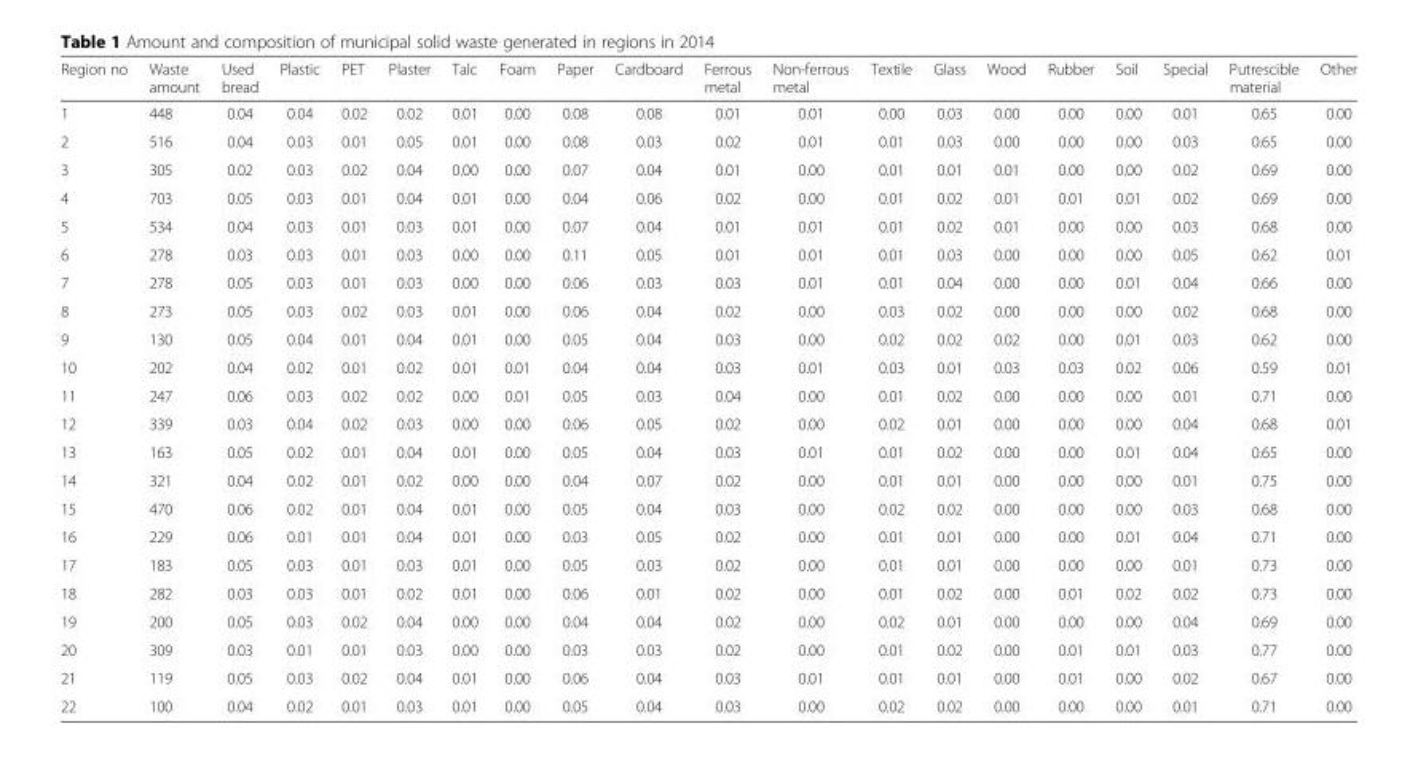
<table><thead><tr><td>Region no</td><td>Waste amount</td><td>Used bread</td><td>Plastic</td><td>PET</td><td>Plaster</td><td>Talc</td><td>Foam</td><td>Paper</td><td>Cardboard</td><td>Ferrous metal</td><td>Non-ferrous metal</td><td>Textile</td><td>Glass</td><td>Wood</td><td>Rubber</td><td>Soil</td><td>Special</td><td>Putrescible material</td><td>Other</td></tr></thead><tbody><tr><td>1</td><td>448</td><td>0.04</td><td>0.04</td><td>0.02</td><td>0.02</td><td>0.01</td><td>0.00</td><td>0.08</td><td>0.08</td><td>0.01</td><td>0.01</td><td>0.00</td><td>0.03</td><td>0.00</td><td>0.00</td><td>0.00</td><td>0.01</td><td>0.65</td><td>0.00</td></tr><tr><td>2</td><td>516</td><td>0.04</td><td>0.03</td><td>0.01</td><td>0.05</td><td>0.01</td><td>0.00</td><td>0.08</td><td>0.03</td><td>0.02</td><td>0.01</td><td>0.01</td><td>0.03</td><td>0.00</td><td>0.00</td><td>0.00</td><td>0.03</td><td>0.65</td><td>0.00</td></tr><tr><td>3</td><td>305</td><td>0.02</td><td>0.03</td><td>0.02</td><td>0.04</td><td>0.00</td><td>0.00</td><td>0.07</td><td>0.04</td><td>0.01</td><td>0.00</td><td>0.01</td><td>0.01</td><td>0.01</td><td>0.00</td><td>0.00</td><td>0.02</td><td>0.69</td><td>0.00</td></tr><tr><td>4</td><td>703</td><td>0.05</td><td>0.03</td><td>0.01</td><td>0.04</td><td>0.01</td><td>0.00</td><td>0.04</td><td>0.06</td><td>0.02</td><td>0.00</td><td>0.01</td><td>0.02</td><td>0.01</td><td>0.01</td><td>0.01</td><td>0.02</td><td>0.69</td><td>0.00</td></tr><tr><td>5</td><td>534</td><td>0.04</td><td>0.03</td><td>0.01</td><td>0.03</td><td>0.01</td><td>0.00</td><td>0.07</td><td>0.04</td><td>0.01</td><td>0.01</td><td>0.01</td><td>0.02</td><td>0.01</td><td>0.00</td><td>0.00</td><td>0.03</td><td>0.68</td><td>0.00</td></tr><tr><td>6</td><td>278</td><td>0.03</td><td>0.03</td><td>0.01</td><td>0.03</td><td>0.00</td><td>0.00</td><td>0.11</td><td>0.05</td><td>0.01</td><td>0.01</td><td>0.01</td><td>0.03</td><td>0.00</td><td>0.00</td><td>0.00</td><td>0.05</td><td>0.62</td><td>0.01</td></tr><tr><td>7</td><td>278</td><td>0.05</td><td>0.03</td><td>0.01</td><td>0.03</td><td>0.00</td><td>0.00</td><td>0.06</td><td>0.03</td><td>0.03</td><td>0.01</td><td>0.01</td><td>0.04</td><td>0.00</td><td>0.00</td><td>0.01</td><td>0.04</td><td>0.66</td><td>0.00</td></tr><tr><td>8</td><td>273</td><td>0.05</td><td>0.03</td><td>0.02</td><td>0.03</td><td>0.01</td><td>0.00</td><td>0.06</td><td>0.04</td><td>0.02</td><td>0.00</td><td>0.03</td><td>0.02</td><td>0.00</td><td>0.00</td><td>0.00</td><td>0.02</td><td>0.68</td><td>0.00</td></tr><tr><td>9</td><td>130</td><td>0.05</td><td>0.04</td><td>0.01</td><td>0.04</td><td>0.01</td><td>0.00</td><td>0.05</td><td>0.04</td><td>0.03</td><td>0.00</td><td>0.02</td><td>0.02</td><td>0.02</td><td>0.00</td><td>0.01</td><td>0.03</td><td>0.62</td><td>0.00</td></tr><tr><td>10</td><td>202</td><td>0.04</td><td>0.02</td><td>0.01</td><td>0.02</td><td>0.01</td><td>0.01</td><td>0.04</td><td>0.04</td><td>0.03</td><td>0.01</td><td>0.03</td><td>0.01</td><td>0.03</td><td>0.03</td><td>0.02</td><td>0.06</td><td>0.59</td><td>0.01</td></tr><tr><td>11</td><td>247</td><td>0.06</td><td>0.03</td><td>0.02</td><td>0.02</td><td>0.00</td><td>0.01</td><td>0.05</td><td>0.03</td><td>0.04</td><td>0.00</td><td>0.01</td><td>0.02</td><td>0.00</td><td>0.00</td><td>0.00</td><td>0.01</td><td>0.71</td><td>0.00</td></tr><tr><td>12</td><td>339</td><td>0.03</td><td>0.04</td><td>0.02</td><td>0.03</td><td>0.00</td><td>0.00</td><td>0.06</td><td>0.05</td><td>0.02</td><td>0.00</td><td>0.02</td><td>0.01</td><td>0.00</td><td>0.00</td><td>0.00</td><td>0.04</td><td>0.68</td><td>0.01</td></tr><tr><td>13</td><td>163</td><td>0.05</td><td>0.02</td><td>0.01</td><td>0.04</td><td>0.01</td><td>0.00</td><td>0.05</td><td>0.04</td><td>0.03</td><td>0.01</td><td>0.01</td><td>0.02</td><td>0.00</td><td>0.00</td><td>0.01</td><td>0.04</td><td>0.65</td><td>0.00</td></tr><tr><td>14</td><td>321</td><td>0.04</td><td>0.02</td><td>0.01</td><td>0.02</td><td>0.00</td><td>0.00</td><td>0.04</td><td>0.07</td><td>0.02</td><td>0.00</td><td>0.01</td><td>0.01</td><td>0.00</td><td>0.00</td><td>0.00</td><td>0.01</td><td>0.75</td><td>0.00</td></tr><tr><td>15</td><td>470</td><td>0.06</td><td>0.02</td><td>0.01</td><td>0.04</td><td>0.01</td><td>0.00</td><td>0.05</td><td>0.04</td><td>0.03</td><td>0.00</td><td>0.02</td><td>0.02</td><td>0.00</td><td>0.00</td><td>0.00</td><td>0.03</td><td>0.68</td><td>0.00</td></tr><tr><td>16</td><td>229</td><td>0.06</td><td>0.01</td><td>0.01</td><td>0.04</td><td>0.01</td><td>0.00</td><td>0.03</td><td>0.05</td><td>0.02</td><td>0.00</td><td>0.01</td><td>0.01</td><td>0.00</td><td>0.00</td><td>0.01</td><td>0.04</td><td>0.71</td><td>0.00</td></tr><tr><td>17</td><td>183</td><td>0.05</td><td>0.03</td><td>0.01</td><td>0.03</td><td>0.01</td><td>0.00</td><td>0.05</td><td>0.03</td><td>0.02</td><td>0.00</td><td>0.01</td><td>0.01</td><td>0.00</td><td>0.00</td><td>0.00</td><td>0.01</td><td>0.73</td><td>0.00</td></tr><tr><td>18</td><td>282</td><td>0.03</td><td>0.03</td><td>0.01</td><td>0.02</td><td>0.01</td><td>0.00</td><td>0.06</td><td>0.01</td><td>0.02</td><td>0.00</td><td>0.01</td><td>0.02</td><td>0.00</td><td>0.01</td><td>0.02</td><td>0.02</td><td>0.73</td><td>0.00</td></tr><tr><td>19</td><td>200</td><td>0.05</td><td>0.03</td><td>0.02</td><td>0.04</td><td>0.00</td><td>0.00</td><td>0.04</td><td>0.04</td><td>0.02</td><td>0.00</td><td>0.02</td><td>0.01</td><td>0.00</td><td>0.00</td><td>0.00</td><td>0.04</td><td>0.69</td><td>0.00</td></tr><tr><td>20</td><td>309</td><td>0.03</td><td>0.01</td><td>0.01</td><td>0.03</td><td>0.00</td><td>0.00</td><td>0.03</td><td>0.03</td><td>0.02</td><td>0.00</td><td>0.01</td><td>0.02</td><td>0.00</td><td>0.01</td><td>0.01</td><td>0.03</td><td>0.77</td><td>0.00</td></tr><tr><td>21</td><td>119</td><td>0.05</td><td>0.03</td><td>0.02</td><td>0.04</td><td>0.01</td><td>0.00</td><td>0.06</td><td>0.04</td><td>0.03</td><td>0.01</td><td>0.01</td><td>0.01</td><td>0.00</td><td>0.01</td><td>0.00</td><td>0.02</td><td>0.67</td><td>0.00</td></tr><tr><td>22</td><td>100</td><td>0.04</td><td>0.02</td><td>0.01</td><td>0.03</td><td>0.01</td><td>0.00</td><td>0.05</td><td>0.04</td><td>0.03</td><td>0.00</td><td>0.02</td><td>0.02</td><td>0.00</td><td>0.00</td><td>0.00</td><td>0.01</td><td>0.71</td><td>0.00</td></tr></tbody></table>